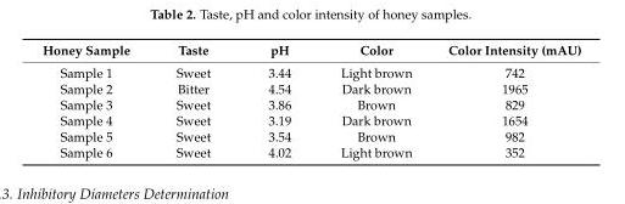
<table><thead><tr><td>Honey Sample</td><td>Taste</td><td>pH</td><td>Color</td><td>Color Intensity (mAU)</td></tr></thead><tbody><tr><td>Sample 1</td><td>Sweet</td><td>3.44</td><td>Light brown</td><td>742</td></tr><tr><td>Sample 2</td><td>Bitter</td><td>4.54</td><td>Dark brown</td><td>1965</td></tr><tr><td>Sample 3</td><td>Sweet</td><td>3.86</td><td>Brown</td><td>829</td></tr><tr><td>Sample 4</td><td>Sweet</td><td>3.19</td><td>Dark brown</td><td>1654</td></tr><tr><td>Sample 5</td><td>Sweet</td><td>3.54</td><td>Brown</td><td>982</td></tr><tr><td>Sample 6</td><td>Sweet</td><td>4.02</td><td>Light brown</td><td>352</td></tr></tbody></table>